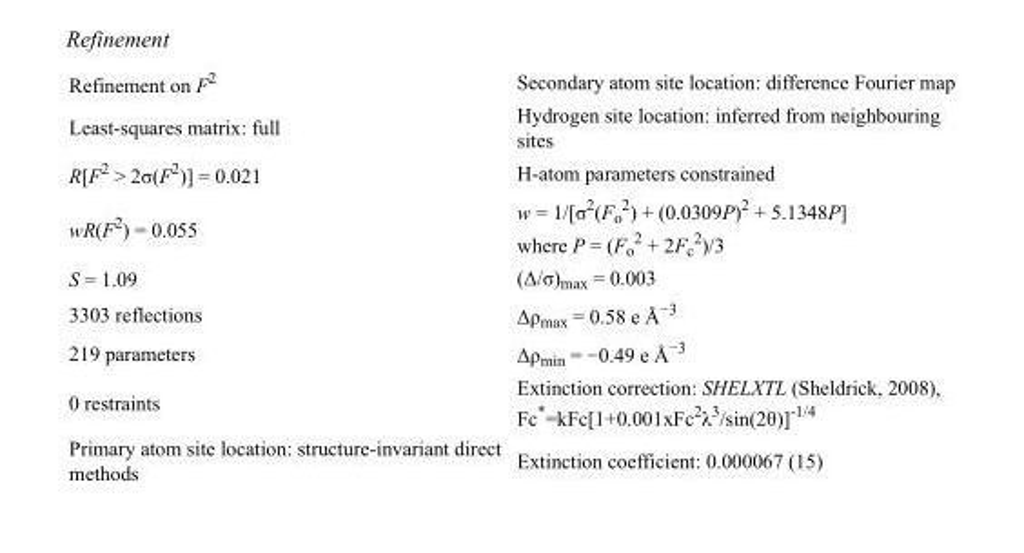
<table><tbody><tr><td>Refinement on F<sup>2</sup></td><td>Secondary atom site location: difference Fourier map</td></tr><tr><td>Least-squares matrix: full</td><td>Hydrogen site location: inferred from neighbouring sites</td></tr><tr><td>R[F<sup>2</sup> &gt; 2σ(F<sup>2</sup>)] = 0.021</td><td>H-atom parameters constrained</td></tr><tr><td>wR(F<sup>2</sup>) = 0.055</td><td>w = 1/[σ<sup>2</sup>(F<sub>o</sub> <sup>2</sup>) + (0.0309P)<sup>2</sup> + 5.1348P] where P = (F<sub>o</sub> <sup>2</sup> + 2F<sub>c</sub> <sup>2</sup>)/3</td></tr><tr><td>S = 1.09</td><td>(Δ/σ)<sub>max</sub> = 0.003</td></tr><tr><td>3303 reflections</td><td>Δρ<sub>max</sub> = 0.58 e Å<sup>−3</sup></td></tr><tr><td>219 parameters</td><td>Δρ<sub>min</sub> = −0.49 e Å<sup>−3</sup></td></tr><tr><td>0 restraints</td><td>Extinction correction: SHELXTL (Sheldrick, 2008), Fc*=kFc[1+0.001xFc<sup>2</sup>λ<sup>3</sup>/sin(2θ)]<sup>-1/4</sup></td></tr><tr><td>Primary atom site location: structure-invariant direct methods</td><td>Extinction coefficient: 0.000067 (15)</td></tr></tbody></table>